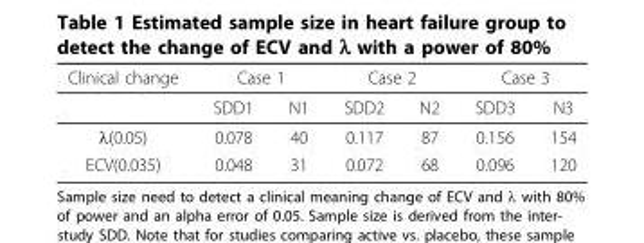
<table><thead><tr><td rowspan="2">Clinical change</td><td colspan="2">Case 1</td><td colspan="2">Case 2</td><td colspan="2">Case 3</td></tr><tr><td>SDD1</td><td>N1</td><td>SDD2</td><td>N2</td><td>SDD3</td><td>N3</td></tr></thead><tbody><tr><td>λ(0.05)</td><td>0.078</td><td>40</td><td>0.117</td><td>87</td><td>0.156</td><td>154</td></tr><tr><td>ECV(0.035)</td><td>0.048</td><td>31</td><td>0.072</td><td>68</td><td>0.096</td><td>120</td></tr></tbody></table>